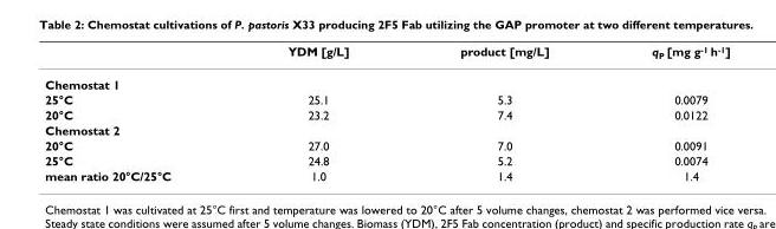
<table><thead><tr><td></td><td>YDM [g/L]</td><td>product [mg/L]</td><td>q<sub>P</sub> [mg g<sup>-1</sup> h<sup>-1</sup>]</td></tr></thead><tbody><tr><td colspan="4">Chemostat 1</td></tr><tr><td>25°C</td><td>25.1</td><td>5.3</td><td>0.0079</td></tr><tr><td>20°C</td><td>23.2</td><td>7.4</td><td>0.0122</td></tr><tr><td colspan="4">Chemostat 2</td></tr><tr><td>20°C</td><td>27.0</td><td>7.0</td><td>0.0091</td></tr><tr><td>25°C</td><td>24.8</td><td>5.2</td><td>0.0074</td></tr><tr><td>mean ratio 20°C/25°C</td><td>1.0</td><td>1.4</td><td>1.4</td></tr></tbody></table>